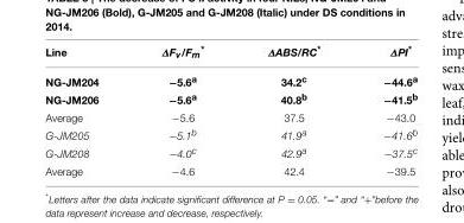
<table><thead><tr><td>Line</td><td>∆Fv/Fm*</td><td>∆ABS/RC*</td><td>∆PI*</td></tr></thead><tbody><tr><td>NG-JM204</td><td>−5.6<sup>a</sup></td><td>34.2<sup>c</sup></td><td>−44.6<sup>a</sup></td></tr><tr><td>NG-JM206</td><td>−5.6<sup>a</sup></td><td>40.8<sup>b</sup></td><td>−41.5<sup>b</sup></td></tr><tr><td>Average</td><td>−5.6</td><td>37.5</td><td>−43.0</td></tr><tr><td>G-JM205</td><td>−5.1<sup>b</sup></td><td>41.9<sup>a</sup></td><td>−41.6<sup>b</sup></td></tr><tr><td>G-JM208</td><td>−4.0<sup>c</sup></td><td>42.9<sup>a</sup></td><td>−37.5<sup>c</sup></td></tr><tr><td>Average</td><td>−4.6</td><td>42.4</td><td>−39.5</td></tr></tbody></table>